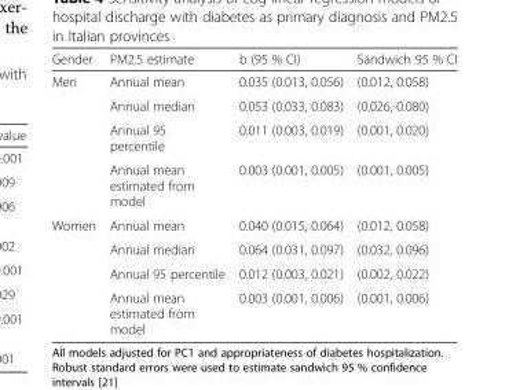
<table><thead><tr><td>Gender</td><td>PM2.5 estimate</td><td>b (95 % CI)</td><td>Sandwich 95 % CI</td></tr></thead><tbody><tr><td rowspan="4">Men</td><td>Annual mean</td><td>0.035 (0.013, 0.056)</td><td>(0.012, 0.058)</td></tr><tr><td>Annual median</td><td>0.053 (0.033, 0.083)</td><td>(0.026, 0.080)</td></tr><tr><td>Annual 95 percentile</td><td>0.011 (0.003, 0.019)</td><td>(0.001, 0.020)</td></tr><tr><td>Annual mean estimated from model</td><td>0.003 (0.001, 0.005)</td><td>(0.001, 0.005)</td></tr><tr><td rowspan="4">Women</td><td>Annual mean</td><td>0.040 (0.015, 0.064)</td><td>(0.012, 0.058)</td></tr><tr><td>Annual median</td><td>0.064 (0.031, 0.097)</td><td>(0.032, 0.096)</td></tr><tr><td>Annual 95 percentile</td><td>0.012 (0.003, 0.021)</td><td>(0.002, 0.022)</td></tr><tr><td>Annual mean estimated from model</td><td>0.003 (0.001, 0.006)</td><td>(0.001, 0.006)</td></tr></tbody></table>